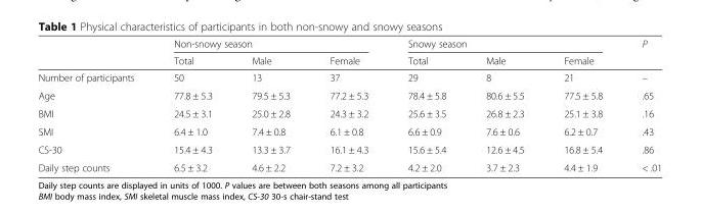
<table><thead><tr><td rowspan="2"></td><td colspan="3">Non-snowy season</td><td colspan="3">Snowy season</td><td rowspan="2">P</td></tr><tr><td>Total</td><td>Male</td><td>Female</td><td>Total</td><td>Male</td><td>Female</td></tr></thead><tbody><tr><td>Number of participants</td><td>50</td><td>13</td><td>37</td><td>29</td><td>8</td><td>21</td><td>–</td></tr><tr><td>Age</td><td>77.8 ± 5.3</td><td>79.5 ± 5.3</td><td>77.2 ± 5.3</td><td>78.4 ± 5.8</td><td>80.6 ± 5.5</td><td>77.5 ± 5.8</td><td>.65</td></tr><tr><td>BMI</td><td>24.5 ± 3.1</td><td>25.0 ± 2.8</td><td>24.3 ± 3.2</td><td>25.6 ± 3.5</td><td>26.8 ± 2.3</td><td>25.1 ± 3.8</td><td>.16</td></tr><tr><td>SMI</td><td>6.4 ± 1.0</td><td>7.4 ± 0.8</td><td>6.1 ± 0.8</td><td>6.6 ± 0.9</td><td>7.6 ± 0.6</td><td>6.2 ± 0.7</td><td>.43</td></tr><tr><td>CS-30</td><td>15.4 ± 4.3</td><td>13.3 ± 3.7</td><td>16.1 ± 4.3</td><td>15.6 ± 5.4</td><td>12.6 ± 4.5</td><td>16.8 ± 5.4</td><td>.86</td></tr><tr><td>Daily step counts</td><td>6.5 ± 3.2</td><td>4.6 ± 2.2</td><td>7.2 ± 3.2</td><td>4.2 ± 2.0</td><td>3.7 ± 2.3</td><td>4.4 ± 1.9</td><td>&lt; .01</td></tr></tbody></table>